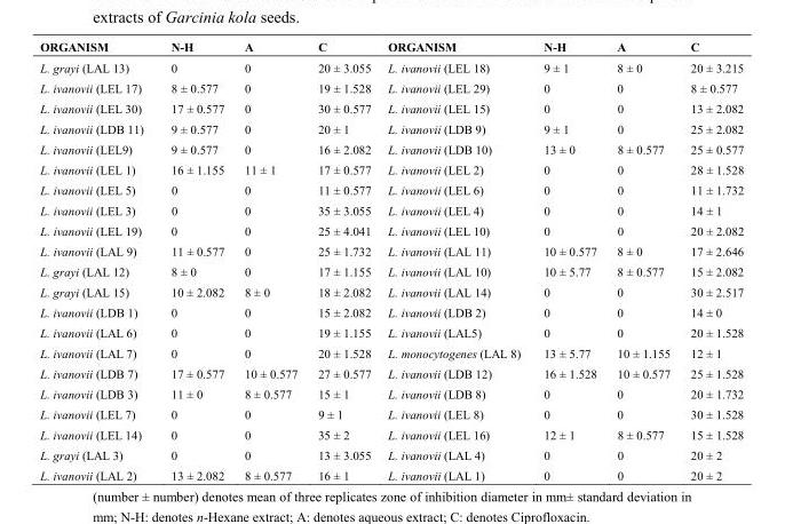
<table><thead><tr><td>ORGANISM</td><td>N-H</td><td>A</td><td>C</td><td>ORGANISM</td><td>N-H</td><td>A</td><td>C</td></tr></thead><tbody><tr><td>L. grayi (LAL 13)</td><td>0</td><td>0</td><td>20 ± 3.055</td><td>L. ivanovii (LEL 18)</td><td>9 ± 1</td><td>8 ± 0</td><td>20 ± 3.215</td></tr><tr><td>L. ivanovii (LEL 17)</td><td>8 ± 0.577</td><td>0</td><td>19 ± 1.528</td><td>L. ivanovii (LEL 29)</td><td>0</td><td>0</td><td>8 ± 0.577</td></tr><tr><td>L. ivanovii (LEL 30)</td><td>17 ± 0.577</td><td>0</td><td>30 ± 0.577</td><td>L. ivanovii (LEL 15)</td><td>0</td><td>0</td><td>13 ± 2.082</td></tr><tr><td>L. ivanovii (LDB 11)</td><td>9 ± 0.577</td><td>0</td><td>20 ± 1</td><td>L. ivanovii (LDB 9)</td><td>9 ± 1</td><td>0</td><td>25 ± 2.082</td></tr><tr><td>L. ivanovii (LEL9)</td><td>9 ± 0.577</td><td>0</td><td>16 ± 2.082</td><td>L. ivanovii (LDB 10)</td><td>13 ± 0</td><td>8 ± 0.577</td><td>25 ± 0.577</td></tr><tr><td>L. ivanovii (LEL 1)</td><td>16 ± 1.155</td><td>11 ± 1</td><td>17 ± 0.577</td><td>L. ivanovii (LEL 2)</td><td>0</td><td>0</td><td>28 ± 1.528</td></tr><tr><td>L. ivanovii (LEL 5)</td><td>0</td><td>0</td><td>11 ± 0.577</td><td>L. ivanovii (LEL 6)</td><td>0</td><td>0</td><td>11 ± 1.732</td></tr><tr><td>L. ivanovii (LEL 3)</td><td>0</td><td>0</td><td>35 ± 3.055</td><td>L. ivanovii (LEL 4)</td><td>0</td><td>0</td><td>14 ± 1</td></tr><tr><td>L. ivanovii (LEL 19)</td><td>0</td><td>0</td><td>25 ± 4.041</td><td>L. ivanovii (LEL 10)</td><td>0</td><td>0</td><td>20 ± 2.082</td></tr><tr><td>L. ivanovii (LAL 9)</td><td>11 ± 0.577</td><td>0</td><td>25 ± 1.732</td><td>L. ivanovii (LAL 11)</td><td>10 ± 0.577</td><td>8 ± 0</td><td>17 ± 2.646</td></tr><tr><td>L. grayi (LAL 12)</td><td>8 ± 0</td><td>0</td><td>17 ± 1.155</td><td>L. ivanovii (LAL 10)</td><td>10 ± 5.77</td><td>8 ± 0.577</td><td>15 ± 2.082</td></tr><tr><td>L. grayi (LAL 15)</td><td>10 ± 2.082</td><td>8 ± 0</td><td>18 ± 2.082</td><td>L. ivanovii (LAL 14)</td><td>0</td><td>0</td><td>30 ± 2.517</td></tr><tr><td>L. ivanovii (LDB 1)</td><td>0</td><td>0</td><td>15 ± 2.082</td><td>L. ivanovii (LDB 2)</td><td>0</td><td>0</td><td>14 ± 0</td></tr><tr><td>L. ivanovii (LAL 6)</td><td>0</td><td>0</td><td>19 ± 1.155</td><td>L. ivanovii (LAL5)</td><td>0</td><td>0</td><td>20 ± 1.528</td></tr><tr><td>L. ivanovii (LAL 7)</td><td>0</td><td>0</td><td>20 ± 1.528</td><td>L. monocytogenes (LAL 8)</td><td>13 ± 5.77</td><td>10 ± 1.155</td><td>12 ± 1</td></tr><tr><td>L. ivanovii (LDB 7)</td><td>17 ± 0.577</td><td>10 ± 0.577</td><td>27 ± 0.577</td><td>L. ivanovii (LDB 12)</td><td>16 ± 1.528</td><td>10 ± 0.577</td><td>25 ± 1.528</td></tr><tr><td>L. ivanovii (LDB 3)</td><td>11 ± 0</td><td>8 ± 0.577</td><td>15 ± 1</td><td>L. ivanovii (LDB 8)</td><td>0</td><td>0</td><td>20 ± 1.732</td></tr><tr><td>L. ivanovii (LEL 7)</td><td>0</td><td>0</td><td>9 ± 1</td><td>L. ivanovii (LEL 8)</td><td>0</td><td>0</td><td>30 ± 1.528</td></tr><tr><td>L. ivanovii (LEL 14)</td><td>0</td><td>0</td><td>35 ± 2</td><td>L. ivanovii (LEL 16)</td><td>12 ± 1</td><td>8 ± 0.577</td><td>15 ± 1.528</td></tr><tr><td>L. grayi (LAL 3)</td><td>0</td><td>0</td><td>13 ± 3.055</td><td>L. ivanovii (LAL 4)</td><td>0</td><td>0</td><td>20 ± 2</td></tr><tr><td>L. ivanovii (LAL 2)</td><td>13 ± 2.082</td><td>8 ± 0.577</td><td>16 ± 1</td><td>L. ivanovii (LAL 1)</td><td>0</td><td>0</td><td>20 ± 2</td></tr></tbody></table>